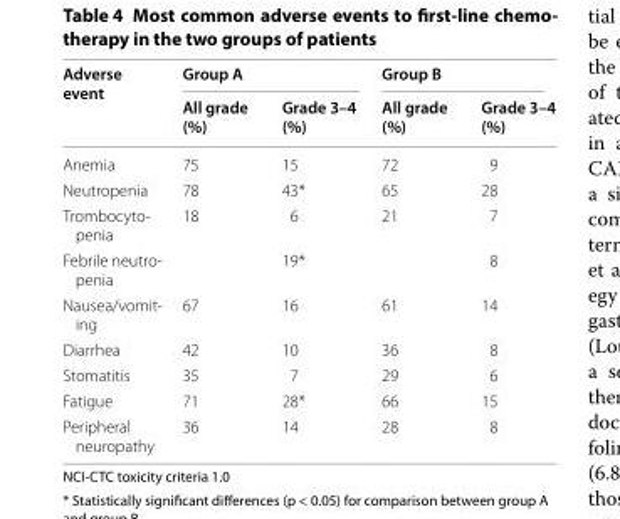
<table><thead><tr><td rowspan="2">Adverse event</td><td colspan="2">Group A</td><td colspan="2">Group B</td></tr><tr><td>All grade (%)</td><td>Grade 3–4 (%)</td><td>All grade (%)</td><td>Grade 3–4 (%)</td></tr></thead><tbody><tr><td>Anemia</td><td>75</td><td>15</td><td>72</td><td>9</td></tr><tr><td>Neutropenia</td><td>78</td><td>43*</td><td>65</td><td>28</td></tr><tr><td>Trombocyto- penia</td><td>18</td><td>6</td><td>21</td><td>7</td></tr><tr><td>Febrile neutro- penia</td><td></td><td>19*</td><td></td><td>8</td></tr><tr><td>Nausea/vomit- ing</td><td>67</td><td>16</td><td>61</td><td>14</td></tr><tr><td>Diarrhea</td><td>42</td><td>10</td><td>36</td><td>8</td></tr><tr><td>Stomatitis</td><td>35</td><td>7</td><td>29</td><td>6</td></tr><tr><td>Fatigue</td><td>71</td><td>28*</td><td>66</td><td>15</td></tr><tr><td>Peripheral neuropathy</td><td>36</td><td>14</td><td>28</td><td>8</td></tr></tbody></table>